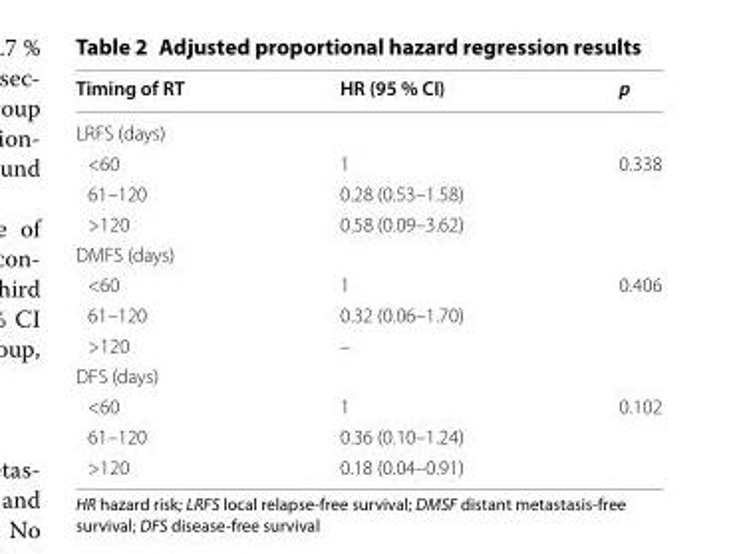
<table><thead><tr><td>Timing of RT</td><td>HR (95 % CI)</td><td>p</td></tr></thead><tbody><tr><td colspan="3">LRFS (days)</td></tr><tr><td>&lt;60</td><td>1</td><td rowspan="3">0.338</td></tr><tr><td>61–120</td><td>0.28 (0.53–1.58)</td></tr><tr><td>&gt;120</td><td>0.58 (0.09–3.62)</td></tr><tr><td colspan="3">DMFS (days)</td></tr><tr><td>&lt;60</td><td>1</td><td rowspan="3">0.406</td></tr><tr><td>61–120</td><td>0.32 (0.06–1.70)</td></tr><tr><td>&gt;120</td><td>–</td></tr><tr><td colspan="3">DFS (days)</td></tr><tr><td>&lt;60</td><td>1</td><td rowspan="3">0.102</td></tr><tr><td>61–120</td><td>0.36 (0.10–1.24)</td></tr><tr><td>&gt;120</td><td>0.18 (0.04–0.91)</td></tr></tbody></table>